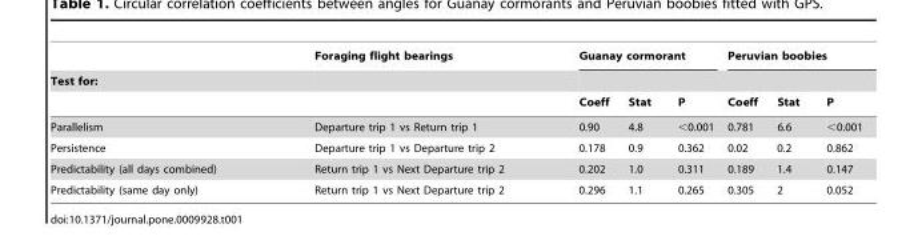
<table><thead><tr><td rowspan="3">Test for:</td><td rowspan="3">Foraging flight bearings</td><td colspan="3">Guanay cormorant</td><td colspan="3">Peruvian boobies</td></tr><tr><td rowspan="2">Coeff</td><td rowspan="2">Stat</td><td rowspan="2">P</td><td rowspan="2">Coeff</td><td rowspan="2">Stat</td><td rowspan="2">P</td></tr><tr></tr></thead><tbody><tr><td>Parallelism</td><td>Departure trip 1 vs Return trip 1</td><td>0.90</td><td>4.8</td><td>&lt;0.001</td><td>0.781</td><td>6.6</td><td>&lt;0.001</td></tr><tr><td>Persistence</td><td>Departure trip 1 vs Departure trip 2</td><td>0.178</td><td>0.9</td><td>0.362</td><td>0.02</td><td>0.2</td><td>0.862</td></tr><tr><td>Predictability (all days combined)</td><td>Return trip 1 vs Next Departure trip 2</td><td>0.202</td><td>1.0</td><td>0.311</td><td>0.189</td><td>1.4</td><td>0.147</td></tr><tr><td>Predictability (same day only)</td><td>Return trip 1 vs Next Departure trip 2</td><td>0.296</td><td>1.1</td><td>0.265</td><td>0.305</td><td>2</td><td>0.052</td></tr></tbody></table>